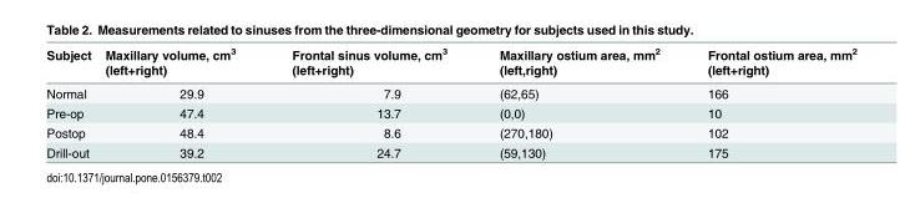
<table><thead><tr><td>Subject</td><td>Maxillary volume, cm<sup>3</sup> (left+right)</td><td>Frontal sinus volume, cm<sup>3</sup> (left+right)</td><td>Maxillary ostium area, mm<sup>2</sup> (left,right)</td><td>Frontal ostium area, mm<sup>2</sup> (left+right)</td></tr></thead><tbody><tr><td>Normal</td><td>29.9</td><td>7.9</td><td>(62,65)</td><td>166</td></tr><tr><td>Pre-op</td><td>47.4</td><td>13.7</td><td>(0,0)</td><td>10</td></tr><tr><td>Postop</td><td>48.4</td><td>8.6</td><td>(270,180)</td><td>102</td></tr><tr><td>Drill-out</td><td>39.2</td><td>24.7</td><td>(59,130)</td><td>175</td></tr></tbody></table>